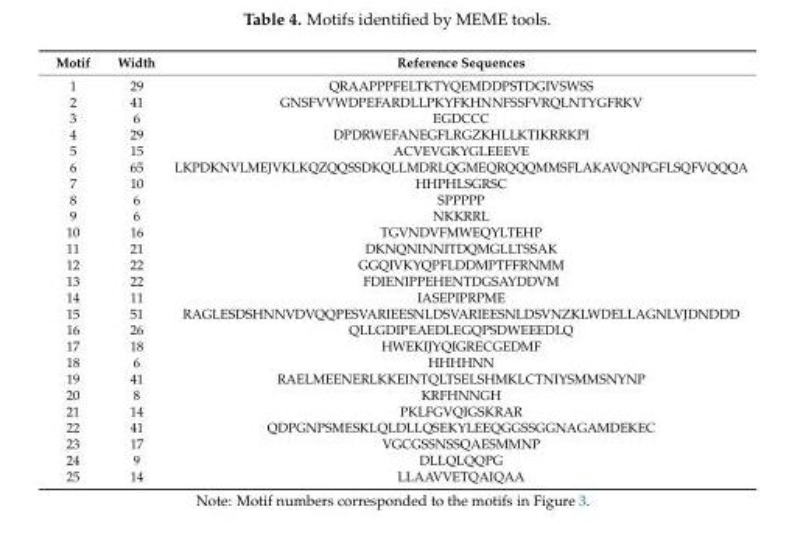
<table><thead><tr><td>Motif</td><td>Width</td><td>Reference Sequences</td></tr></thead><tbody><tr><td>1</td><td>29</td><td>QRAAPPPFELTKTYQEMDDPSTDGIVSWSS</td></tr><tr><td>2</td><td>41</td><td>GNSFVVWDPEFARDLLPKYFKHNNFSSFVRQLNTYGFRKV</td></tr><tr><td>3</td><td>6</td><td>EGDCCC</td></tr><tr><td>4</td><td>29</td><td>DPDRWEFANEGFLRGZKHLLKTIKRRKPI</td></tr><tr><td>5</td><td>15</td><td>ACVEVGKYGLEEEVE</td></tr><tr><td>6</td><td>65</td><td>LKPDKNVLMEJVKLKQZQQSSDKQLLMDRLQGMEQRQQQMMSFLAKAVQNPGFLSQFVQQQA</td></tr><tr><td>7</td><td>10</td><td>HHPHLSGRSC</td></tr><tr><td>8</td><td>6</td><td>SPPPPP</td></tr><tr><td>9</td><td>6</td><td>NKKRRL</td></tr><tr><td>10</td><td>16</td><td>TGVNDVFMWEQYLTEHP</td></tr><tr><td>11</td><td>21</td><td>DKNQNINNITDQMGLLTSSAK</td></tr><tr><td>12</td><td>22</td><td>GGQIVKYQPFLDDMPTFFRNMM</td></tr><tr><td>13</td><td>22</td><td>FDIENIPPEHENTDGSAYDDVM</td></tr><tr><td>14</td><td>11</td><td>IASEPIPRPME</td></tr><tr><td>15</td><td>51</td><td>RAGLESDSHNNVDVQQPESVARIEESNLDSVARIEESNLDSVNZKLWDELLAGNLVJDNDDD</td></tr><tr><td>16</td><td>26</td><td>QLLGDIPEAEDLEGQPSDWEEEDLQ</td></tr><tr><td>17</td><td>18</td><td>HWEKIJYQIGRECGEDMF</td></tr><tr><td>18</td><td>6</td><td>HHHHNN</td></tr><tr><td>19</td><td>41</td><td>RAELMEENERLKKEINTQLTSELSHMKLCTNIYSMMSNYNP</td></tr><tr><td>20</td><td>8</td><td>KRFHNNGH</td></tr><tr><td>21</td><td>14</td><td>PKLFGVQIGSKRAR</td></tr><tr><td>22</td><td>41</td><td>QDPGNPSMESKLQLDLLQSEKYLEEQGGSSGGNAGAMDEKEC</td></tr><tr><td>23</td><td>17</td><td>VGCGSSNSSQAESMMNP</td></tr><tr><td>24</td><td>9</td><td>DLLQLQQPG</td></tr><tr><td>25</td><td>14</td><td>LLAAVVETQAIQAA</td></tr></tbody></table>